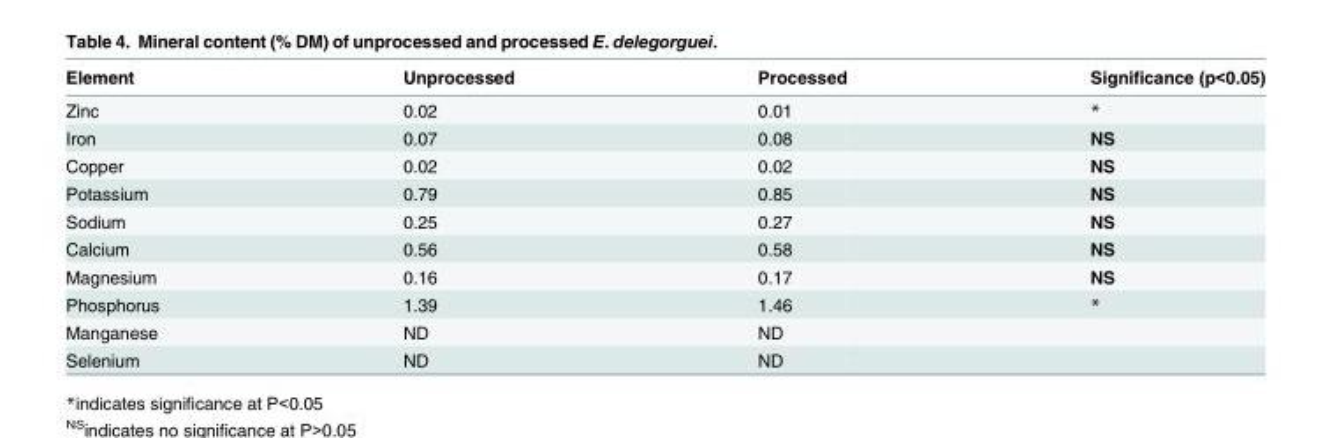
<table><thead><tr><td>Element</td><td>Unprocessed</td><td>Processed</td><td>Significance (p&lt;0.05)</td></tr></thead><tbody><tr><td>Zinc</td><td>0.02</td><td>0.01</td><td>*</td></tr><tr><td>Iron</td><td>0.07</td><td>0.08</td><td>NS</td></tr><tr><td>Copper</td><td>0.02</td><td>0.02</td><td>NS</td></tr><tr><td>Potassium</td><td>0.79</td><td>0.85</td><td>NS</td></tr><tr><td>Sodium</td><td>0.25</td><td>0.27</td><td>NS</td></tr><tr><td>Calcium</td><td>0.56</td><td>0.58</td><td>NS</td></tr><tr><td>Magnesium</td><td>0.16</td><td>0.17</td><td>NS</td></tr><tr><td>Phosphorus</td><td>1.39</td><td>1.46</td><td>*</td></tr><tr><td>Manganese</td><td>ND</td><td>ND</td><td></td></tr><tr><td>Selenium</td><td>ND</td><td>ND</td><td></td></tr></tbody></table>